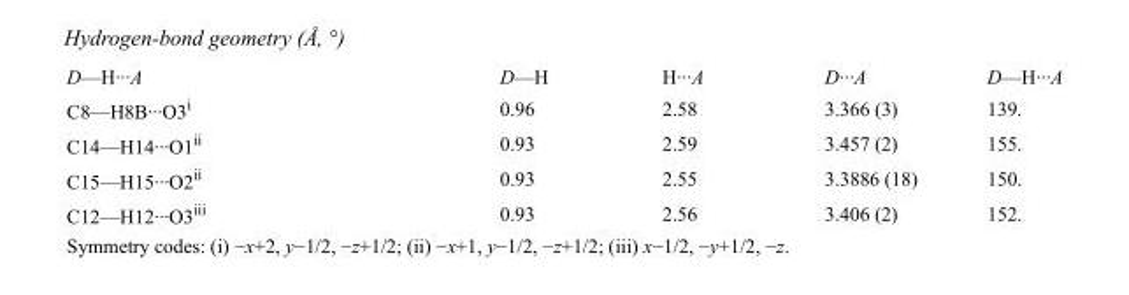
<table><tbody><tr><td>D—H···A</td><td>D—H</td><td>H···A</td><td>D···A</td><td>D—H···A</td></tr><tr><td>C8—H8B···O3<sup>i</sup></td><td>0.96</td><td>2.58</td><td>3.366 (3)</td><td>139.</td></tr><tr><td>C14—H14···O1<sup>ii</sup></td><td>0.93</td><td>2.59</td><td>3.457 (2)</td><td>155.</td></tr><tr><td>C15—H15···O2<sup>ii</sup></td><td>0.93</td><td>2.55</td><td>3.3886 (18)</td><td>150.</td></tr><tr><td>C12—H12···O3<sup>iii</sup></td><td>0.93</td><td>2.56</td><td>3.406 (2)</td><td>152.</td></tr></tbody></table>